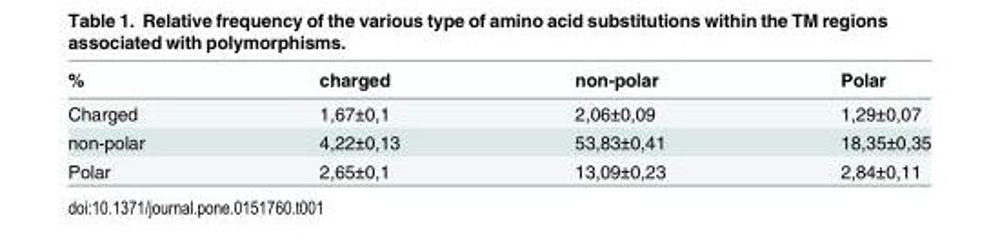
<table><thead><tr><td>%</td><td>charged</td><td>non-polar</td><td>Polar</td></tr></thead><tbody><tr><td>Charged</td><td>1,67±0,1</td><td>2,06±0,09</td><td>1,29±0,07</td></tr><tr><td>non-polar</td><td>4,22±0,13</td><td>53,83±0,41</td><td>18,35±0,35</td></tr><tr><td>Polar</td><td>2,65±0,1</td><td>13,09±0,23</td><td>2,84±0,11</td></tr></tbody></table>